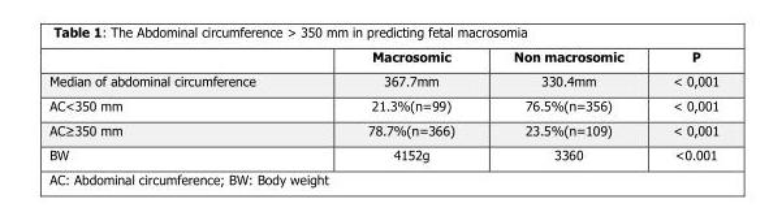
<table><thead><tr><td></td><td>Macrosomic</td><td>Non macrosomic</td><td>P</td></tr></thead><tbody><tr><td>Median of abdominal circumference</td><td>367.7mm</td><td>330.4mm</td><td>&lt; 0,001</td></tr><tr><td>AC&lt;350 mm</td><td>21.3%(n=99)</td><td>76.5%(n=356)</td><td>&lt; 0,001</td></tr><tr><td>AC≥350 mm</td><td>78.7%(n=366)</td><td>23.5%(n=109)</td><td>&lt; 0,001</td></tr><tr><td>BW</td><td>4152g</td><td>3360</td><td>&lt;0.001</td></tr></tbody></table>